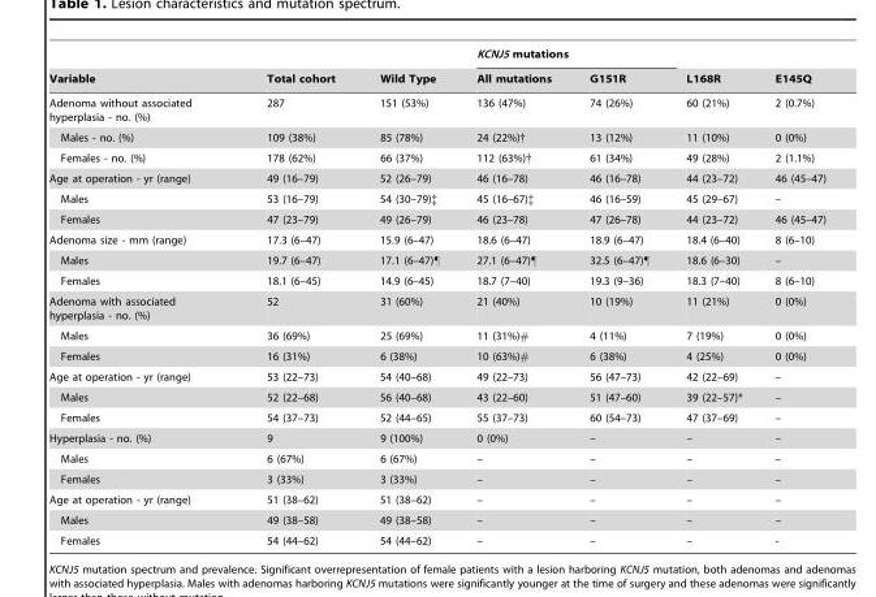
<table><thead><tr><td rowspan="2">Variable</td><td rowspan="2">Total cohort</td><td rowspan="2">Wild Type</td><td colspan="2">KCNJ5 mutations</td><td rowspan="2">L168R</td><td rowspan="2">E145Q</td></tr><tr><td>All mutations</td><td>G151R</td></tr></thead><tbody><tr><td>Adenoma without associated hyperplasia - no. (%)</td><td>287</td><td>151 (53%)</td><td>136 (47%)</td><td>74 (26%)</td><td>60 (21%)</td><td>2 (0.7%)</td></tr><tr><td>Males - no. (%)</td><td>109 (38%)</td><td>85 (78%)</td><td>24 (22%)†</td><td>13 (12%)</td><td>11 (10%)</td><td>0 (0%)</td></tr><tr><td>Females - no. (%)</td><td>178 (62%)</td><td>66 (37%)</td><td>112 (63%)†</td><td>61 (34%)</td><td>49 (28%)</td><td>2 (1.1%)</td></tr><tr><td>Age at operation - yr (range)</td><td>49 (16–79)</td><td>52 (26–79)</td><td>46 (16–78)</td><td>46 (16–78)</td><td>44 (23–72)</td><td>46 (45–47)</td></tr><tr><td>Males</td><td>53 (16–79)</td><td>54 (30–79)‡</td><td>45 (16–67)‡</td><td>46 (16–59)</td><td>45 (29–67)</td><td>–</td></tr><tr><td>Females</td><td>47 (23–79)</td><td>49 (26–79)</td><td>46 (23–78)</td><td>47 (26–78)</td><td>44 (23–72)</td><td>46 (45–47)</td></tr><tr><td>Adenoma size - mm (range)</td><td>17.3 (6–47)</td><td>15.9 (6–47)</td><td>18.6 (6–47)</td><td>18.9 (6–47)</td><td>18.4 (6–40)</td><td>8 (6–10)</td></tr><tr><td>Males</td><td>19.7 (6–47)</td><td>17.1 (6–47)¶</td><td>27.1 (6–47)¶</td><td>32.5 (6–47)¶</td><td>18.6 (6–30)</td><td>–</td></tr><tr><td>Females</td><td>18.1 (6–45)</td><td>14.9 (6–45)</td><td>18.7 (7–40)</td><td>19.3 (9–36)</td><td>18.3 (7–40)</td><td>8 (6–10)</td></tr><tr><td>Adenoma with associated hyperplasia - no. (%)</td><td>52</td><td>31 (60%)</td><td>21 (40%)</td><td>10 (19%)</td><td>11 (21%)</td><td>0 (0%)</td></tr><tr><td>Males</td><td>36 (69%)</td><td>25 (69%)</td><td>11 (31%)#</td><td>4 (11%)</td><td>7 (19%)</td><td>0 (0%)</td></tr><tr><td>Females</td><td>16 (31%)</td><td>6 (38%)</td><td>10 (63%)#</td><td>6 (38%)</td><td>4 (25%)</td><td>0 (0%)</td></tr><tr><td>Age at operation - yr (range)</td><td>53 (22–73)</td><td>54 (40–68)</td><td>49 (22–73)</td><td>56 (47–73)</td><td>42 (22–69)</td><td>–</td></tr><tr><td>Males</td><td>52 (22–68)</td><td>56 (40–68)</td><td>43 (22–60)</td><td>51 (47–60)</td><td>39 (22–57)*</td><td>–</td></tr><tr><td>Females</td><td>54 (37–73)</td><td>52 (44–65)</td><td>55 (37–73)</td><td>60 (54–73)</td><td>47 (37–69)</td><td>–</td></tr><tr><td>Hyperplasia - no. (%)</td><td>9</td><td>9 (100%)</td><td>0 (0%)</td><td>–</td><td>–</td><td>–</td></tr><tr><td>Males</td><td>6 (67%)</td><td>6 (67%)</td><td>–</td><td>–</td><td>–</td><td>–</td></tr><tr><td>Females</td><td>3 (33%)</td><td>3 (33%)</td><td>–</td><td>–</td><td>–</td><td>–</td></tr><tr><td>Age at operation - yr (range)</td><td>51 (38–62)</td><td>51 (38–62)</td><td>–</td><td>–</td><td>–</td><td>–</td></tr><tr><td>Males</td><td>49 (38–58)</td><td>49 (38–58)</td><td>–</td><td>–</td><td>–</td><td>–</td></tr><tr><td>Females</td><td>54 (44–62)</td><td>54 (44–62)</td><td>–</td><td>–</td><td>–</td><td>-</td></tr></tbody></table>